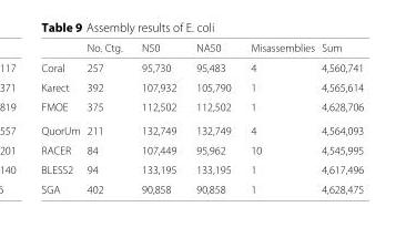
<table><thead><tr><td></td><td>No. Ctg.</td><td>N50</td><td>NA50</td><td>Misassemblies</td><td>Sum</td></tr></thead><tbody><tr><td>Coral</td><td>257</td><td>95,730</td><td>95,483</td><td>4</td><td>4,560,741</td></tr><tr><td>Karect</td><td>392</td><td>107,932</td><td>105,790</td><td>1</td><td>4,565,614</td></tr><tr><td>FMOE</td><td>375</td><td>112,502</td><td>112,502</td><td>1</td><td>4,628,706</td></tr><tr><td>QuorUm</td><td>211</td><td>132,749</td><td>132,749</td><td>4</td><td>4,564,093</td></tr><tr><td>RACER</td><td>84</td><td>107,449</td><td>95,962</td><td>10</td><td>4,545,995</td></tr><tr><td>BLESS2</td><td>94</td><td>133,195</td><td>133,195</td><td>1</td><td>4,617,496</td></tr><tr><td>SGA</td><td>402</td><td>90,858</td><td>90,858</td><td>1</td><td>4,628,475</td></tr></tbody></table>